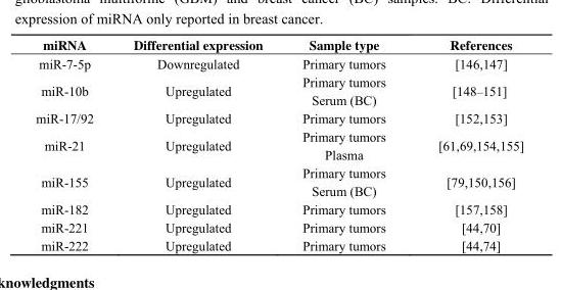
<table><thead><tr><td>miRNA</td><td>Differential expression</td><td>Sample type</td><td>References</td></tr></thead><tbody><tr><td>miR-7-5p</td><td>Downregulated</td><td>Primary tumors</td><td>[146,147]</td></tr><tr><td>miR-10b</td><td>Upregulated</td><td>Primary tumors Serum (BC)</td><td>[148–151]</td></tr><tr><td>miR-17/92</td><td>Upregulated</td><td>Primary tumors</td><td>[152,153]</td></tr><tr><td>miR-21</td><td>Upregulated</td><td>Primary tumors Plasma</td><td>[61,69,154,155]</td></tr><tr><td>miR-155</td><td>Upregulated</td><td>Primary tumors Serum (BC)</td><td>[79,150,156]</td></tr><tr><td>miR-182</td><td>Upregulated</td><td>Primary tumors</td><td>[157,158]</td></tr><tr><td>miR-221</td><td>Upregulated</td><td>Primary tumors</td><td>[44,70]</td></tr><tr><td>miR-222</td><td>Upregulated</td><td>Primary tumors</td><td>[44,74]</td></tr></tbody></table>